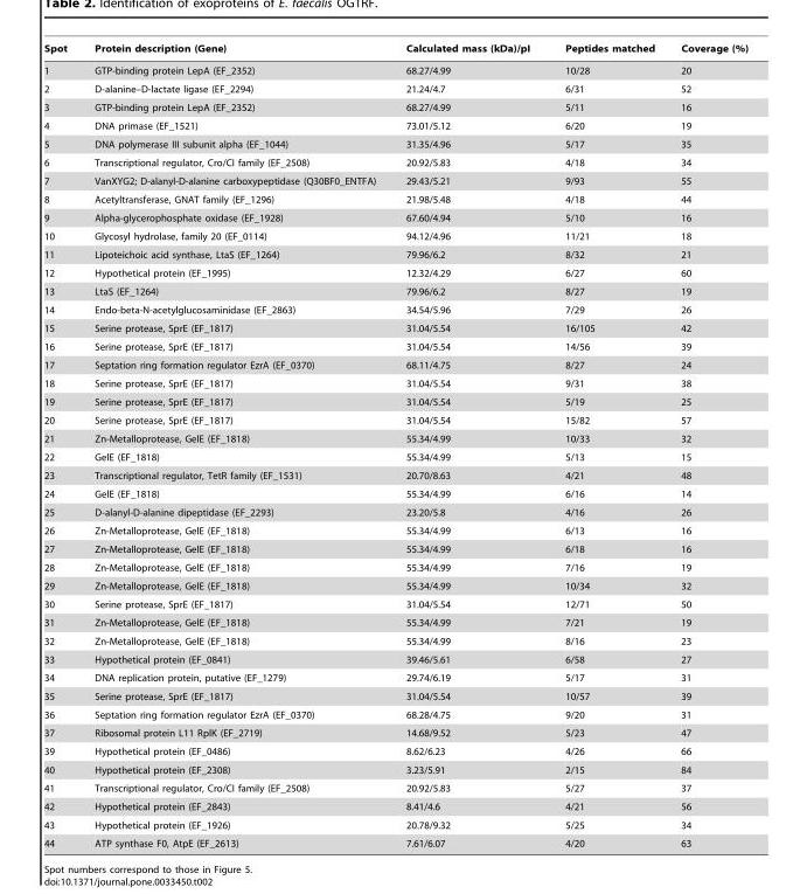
<table><thead><tr><td>Spot</td><td>Protein description (Gene)</td><td>Calculated mass (kDa)/pI</td><td>Peptides matched</td><td>Coverage (%)</td></tr></thead><tbody><tr><td>1</td><td>GTP-binding protein LepA (EF_2352)</td><td>68.27/4.99</td><td>10/28</td><td>20</td></tr><tr><td>2</td><td>D-alanine–D-lactate ligase (EF_2294)</td><td>21.24/4.7</td><td>6/31</td><td>52</td></tr><tr><td>3</td><td>GTP-binding protein LepA (EF_2352)</td><td>68.27/4.99</td><td>5/11</td><td>16</td></tr><tr><td>4</td><td>DNA primase (EF_1521)</td><td>73.01/5.12</td><td>6/20</td><td>19</td></tr><tr><td>5</td><td>DNA polymerase III subunit alpha (EF_1044)</td><td>31.35/4.96</td><td>5/17</td><td>35</td></tr><tr><td>6</td><td>Transcriptional regulator, Cro/CI family (EF_2508)</td><td>20.92/5.83</td><td>4/18</td><td>34</td></tr><tr><td>7</td><td>VanXYG2; D-alanyl-D-alanine carboxypeptidase (Q30BF0_ENTFA)</td><td>29.43/5.21</td><td>9/93</td><td>55</td></tr><tr><td>8</td><td>Acetyltransferase, GNAT family (EF_1296)</td><td>21.98/5.48</td><td>4/18</td><td>44</td></tr><tr><td>9</td><td>Alpha-glycerophosphate oxidase (EF_1928)</td><td>67.60/4.94</td><td>5/10</td><td>16</td></tr><tr><td>10</td><td>Glycosyl hydrolase, family 20 (EF_0114)</td><td>94.12/4.96</td><td>11/21</td><td>18</td></tr><tr><td>11</td><td>Lipoteichoic acid synthase, LtaS (EF_1264)</td><td>79.96/6.2</td><td>8/32</td><td>21</td></tr><tr><td>12</td><td>Hypothetical protein (EF_1995)</td><td>12.32/4.29</td><td>6/27</td><td>60</td></tr><tr><td>13</td><td>LtaS (EF_1264)</td><td>79.96/6.2</td><td>8/27</td><td>19</td></tr><tr><td>14</td><td>Endo-beta-N-acetylglucosaminidase (EF_2863)</td><td>34.54/5.96</td><td>7/29</td><td>26</td></tr><tr><td>15</td><td>Serine protease, SprE (EF_1817)</td><td>31.04/5.54</td><td>16/105</td><td>42</td></tr><tr><td>16</td><td>Serine protease, SprE (EF_1817)</td><td>31.04/5.54</td><td>14/56</td><td>39</td></tr><tr><td>17</td><td>Septation ring formation regulator EzrA (EF_0370)</td><td>68.11/4.75</td><td>8/27</td><td>24</td></tr><tr><td>18</td><td>Serine protease, SprE (EF_1817)</td><td>31.04/5.54</td><td>9/31</td><td>38</td></tr><tr><td>19</td><td>Serine protease, SprE (EF_1817)</td><td>31.04/5.54</td><td>5/19</td><td>25</td></tr><tr><td>20</td><td>Serine protease, SprE (EF_1817)</td><td>31.04/5.54</td><td>15/82</td><td>57</td></tr><tr><td>21</td><td>Zn-Metalloprotease, GelE (EF_1818)</td><td>55.34/4.99</td><td>10/33</td><td>32</td></tr><tr><td>22</td><td>GelE (EF_1818)</td><td>55.34/4.99</td><td>5/13</td><td>15</td></tr><tr><td>23</td><td>Transcriptional regulator, TetR family (EF_1531)</td><td>20.70/8.63</td><td>4/21</td><td>48</td></tr><tr><td>24</td><td>GelE (EF_1818)</td><td>55.34/4.99</td><td>6/16</td><td>14</td></tr><tr><td>25</td><td>D-alanyl-D-alanine dipeptidase (EF_2293)</td><td>23.20/5.8</td><td>4/16</td><td>26</td></tr><tr><td>26</td><td>Zn-Metalloprotease, GelE (EF_1818)</td><td>55.34/4.99</td><td>6/13</td><td>16</td></tr><tr><td>27</td><td>Zn-Metalloprotease, GelE (EF_1818)</td><td>55.34/4.99</td><td>6/18</td><td>16</td></tr><tr><td>28</td><td>Zn-Metalloprotease, GelE (EF_1818)</td><td>55.34/4.99</td><td>7/16</td><td>19</td></tr><tr><td>29</td><td>Zn-Metalloprotease, GelE (EF_1818)</td><td>55.34/4.99</td><td>10/34</td><td>32</td></tr><tr><td>30</td><td>Serine protease, SprE (EF_1817)</td><td>31.04/5.54</td><td>12/71</td><td>50</td></tr><tr><td>31</td><td>Zn-Metalloprotease, GelE (EF_1818)</td><td>55.34/4.99</td><td>7/21</td><td>19</td></tr><tr><td>32</td><td>Zn-Metalloprotease, GelE (EF_1818)</td><td>55.34/4.99</td><td>8/16</td><td>23</td></tr><tr><td>33</td><td>Hypothetical protein (EF_0841)</td><td>39.46/5.61</td><td>6/58</td><td>27</td></tr><tr><td>34</td><td>DNA replication protein, putative (EF_1279)</td><td>29.74/6.19</td><td>5/17</td><td>31</td></tr><tr><td>35</td><td>Serine protease, SprE (EF_1817)</td><td>31.04/5.54</td><td>10/57</td><td>39</td></tr><tr><td>36</td><td>Septation ring formation regulator EzrA (EF_0370)</td><td>68.28/4.75</td><td>9/20</td><td>31</td></tr><tr><td>37</td><td>Ribosomal protein L11 RplK (EF_2719)</td><td>14.68/9.52</td><td>5/23</td><td>47</td></tr><tr><td>39</td><td>Hypothetical protein (EF_0486)</td><td>8.62/6.23</td><td>4/26</td><td>66</td></tr><tr><td>40</td><td>Hypothetical protein (EF_2308)</td><td>3.23/5.91</td><td>2/15</td><td>84</td></tr><tr><td>41</td><td>Transcriptional regulator, Cro/CI family (EF_2508)</td><td>20.92/5.83</td><td>5/27</td><td>37</td></tr><tr><td>42</td><td>Hypothetical protein (EF_2843)</td><td>8.41/4.6</td><td>4/21</td><td>56</td></tr><tr><td>43</td><td>Hypothetical protein (EF_1926)</td><td>20.78/9.32</td><td>5/25</td><td>34</td></tr><tr><td>44</td><td>ATP synthase F0, AtpE (EF_2613)</td><td>7.61/6.07</td><td>4/20</td><td>63</td></tr></tbody></table>